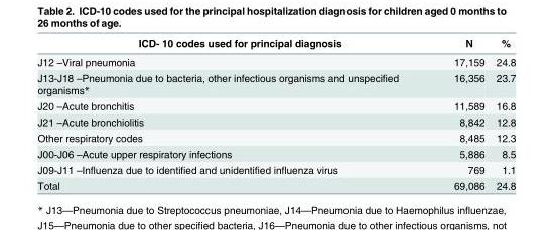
<table><thead><tr><td>ICD- 10 codes used for principal diagnosis</td><td>N</td><td>%</td></tr></thead><tbody><tr><td>J12 –Viral pneumonia</td><td>17,159</td><td>24.8</td></tr><tr><td>J13-J18 –Pneumonia due to bacteria, other infectious organisms and unspecified organisms*</td><td>16,356</td><td>23.7</td></tr><tr><td>J20 –Acute bronchitis</td><td>11,589</td><td>16.8</td></tr><tr><td>J21 –Acute bronchiolitis</td><td>8,842</td><td>12.8</td></tr><tr><td>Other respiratory codes</td><td>8,485</td><td>12.3</td></tr><tr><td>J00-J06 –Acute upper respiratory infections</td><td>5,886</td><td>8.5</td></tr><tr><td>J09-J11 –Influenza due to identified and unidentified influenza virus</td><td>769</td><td>1.1</td></tr><tr><td>Total</td><td>69,086</td><td>24.8</td></tr></tbody></table>